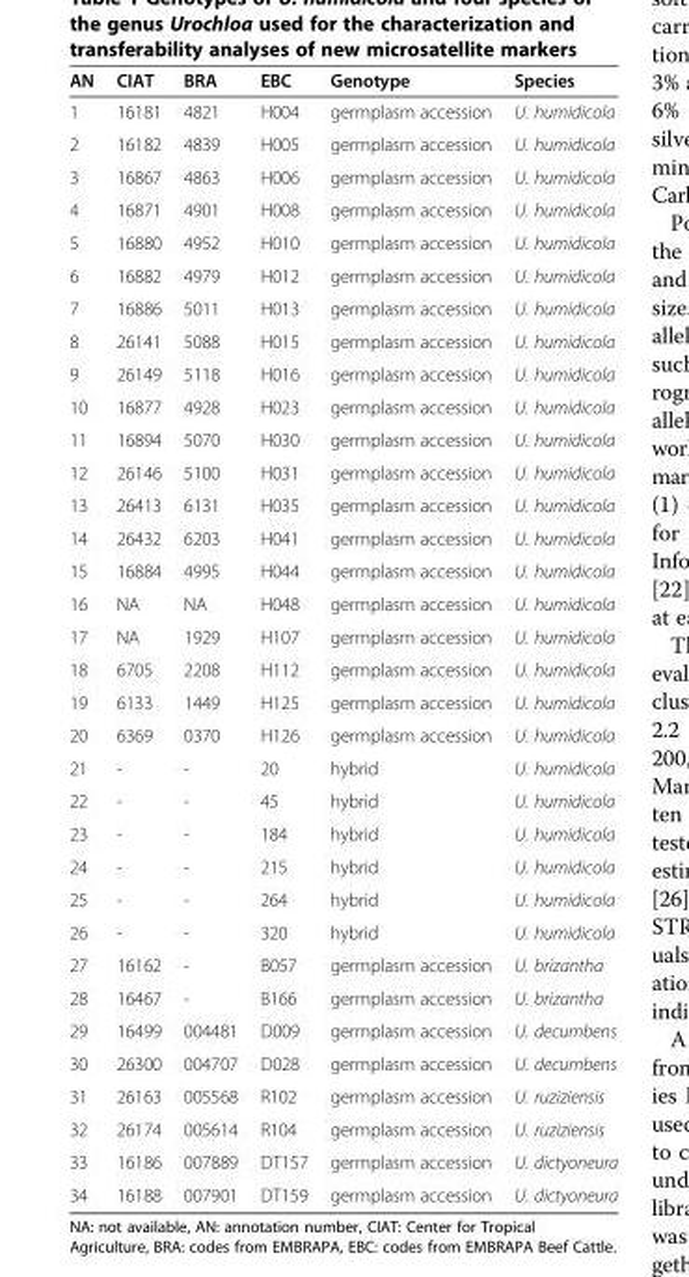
<table><thead><tr><td>AN</td><td>CIAT</td><td>BRA</td><td>EBC</td><td>Genotype</td><td>Species</td></tr></thead><tbody><tr><td>1</td><td>16181</td><td>4821</td><td>H004</td><td>germplasm accession</td><td>U. humidicola</td></tr><tr><td>2</td><td>16182</td><td>4839</td><td>H005</td><td>germplasm accession</td><td>U. humidicola</td></tr><tr><td>3</td><td>16867</td><td>4863</td><td>H006</td><td>germplasm accession</td><td>U. humidicola</td></tr><tr><td>4</td><td>16871</td><td>4901</td><td>H008</td><td>germplasm accession</td><td>U. humidicola</td></tr><tr><td>5</td><td>16880</td><td>4952</td><td>H010</td><td>germplasm accession</td><td>U. humidicola</td></tr><tr><td>6</td><td>16882</td><td>4979</td><td>H012</td><td>germplasm accession</td><td>U. humidicola</td></tr><tr><td>7</td><td>16886</td><td>5011</td><td>H013</td><td>germplasm accession</td><td>U. humidicola</td></tr><tr><td>8</td><td>26141</td><td>5088</td><td>H015</td><td>germplasm accession</td><td>U. humidicola</td></tr><tr><td>9</td><td>26149</td><td>5118</td><td>H016</td><td>germplasm accession</td><td>U. humidicola</td></tr><tr><td>10</td><td>16877</td><td>4928</td><td>H023</td><td>germplasm accession</td><td>U. humidicola</td></tr><tr><td>11</td><td>16894</td><td>5070</td><td>H030</td><td>germplasm accession</td><td>U. humidicola</td></tr><tr><td>12</td><td>26146</td><td>5100</td><td>H031</td><td>germplasm accession</td><td>U. humidicola</td></tr><tr><td>13</td><td>26413</td><td>6131</td><td>H035</td><td>germplasm accession</td><td>U. humidicola</td></tr><tr><td>14</td><td>26432</td><td>6203</td><td>H041</td><td>germplasm accession</td><td>U. humidicola</td></tr><tr><td>15</td><td>16884</td><td>4995</td><td>H044</td><td>germplasm accession</td><td>U. humidicola</td></tr><tr><td>16</td><td>NA</td><td>NA</td><td>H048</td><td>germplasm accession</td><td>U. humidicola</td></tr><tr><td>17</td><td>NA</td><td>1929</td><td>H107</td><td>germplasm accession</td><td>U. humidicola</td></tr><tr><td>18</td><td>6705</td><td>2208</td><td>H112</td><td>germplasm accession</td><td>U. humidicola</td></tr><tr><td>19</td><td>6133</td><td>1449</td><td>H125</td><td>germplasm accession</td><td>U. humidicola</td></tr><tr><td>20</td><td>6369</td><td>0370</td><td>H126</td><td>germplasm accession</td><td>U. humidicola</td></tr><tr><td>21</td><td>-</td><td>-</td><td>20</td><td>hybrid</td><td>U. humidicola</td></tr><tr><td>22</td><td>-</td><td>-</td><td>45</td><td>hybrid</td><td>U. humidicola</td></tr><tr><td>23</td><td>-</td><td>-</td><td>184</td><td>hybrid</td><td>U. humidicola</td></tr><tr><td>24</td><td>-</td><td>-</td><td>215</td><td>hybrid</td><td>U. humidicola</td></tr><tr><td>25</td><td>-</td><td>-</td><td>264</td><td>hybrid</td><td>U. humidicola</td></tr><tr><td>26</td><td>-</td><td>-</td><td>320</td><td>hybrid</td><td>U. humidicola</td></tr><tr><td>27</td><td>16162</td><td>-</td><td>B057</td><td>germplasm accession</td><td>U. brizantha</td></tr><tr><td>28</td><td>16467</td><td>-</td><td>B166</td><td>germplasm accession</td><td>U. brizantha</td></tr><tr><td>29</td><td>16499</td><td>004481</td><td>D009</td><td>germplasm accession</td><td>U. decumbens</td></tr><tr><td>30</td><td>26300</td><td>004707</td><td>D028</td><td>germplasm accession</td><td>U. decumbens</td></tr><tr><td>31</td><td>26163</td><td>005568</td><td>R102</td><td>germplasm accession</td><td>U. ruziziensis</td></tr><tr><td>32</td><td>26174</td><td>005614</td><td>R104</td><td>germplasm accession</td><td>U. ruziziensis</td></tr><tr><td>33</td><td>16186</td><td>007889</td><td>DT157</td><td>germplasm accession</td><td>U. dictyoneura</td></tr><tr><td>34</td><td>16188</td><td>007901</td><td>DT159</td><td>germplasm accession</td><td>U. dictyoneura</td></tr></tbody></table>